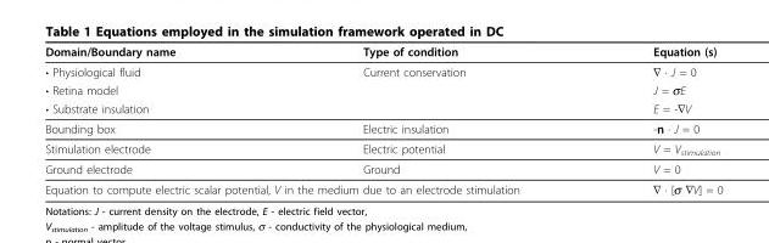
<table><thead><tr><td>Domain/Boundary name</td><td>Type of condition</td><td>Equation (s)</td></tr></thead><tbody><tr><td>• Physiological fluid</td><td>Current conservation</td><td>∇ · J = 0</td></tr><tr><td>• Retina model</td><td></td><td>J = σE</td></tr><tr><td>• Substrate insulation</td><td></td><td>E = -∇V</td></tr><tr><td>Bounding box</td><td>Electric insulation</td><td>-n · J = 0</td></tr><tr><td>Stimulation electrode</td><td>Electric potential</td><td>V = V<sub>stimulation</sub></td></tr><tr><td>Ground electrode</td><td>Ground</td><td>V = 0</td></tr><tr><td colspan="2">Equation to compute electric scalar potential, V in the medium due to an electrode stimulation</td><td>∇ · [σ ∇V] = 0</td></tr></tbody></table>